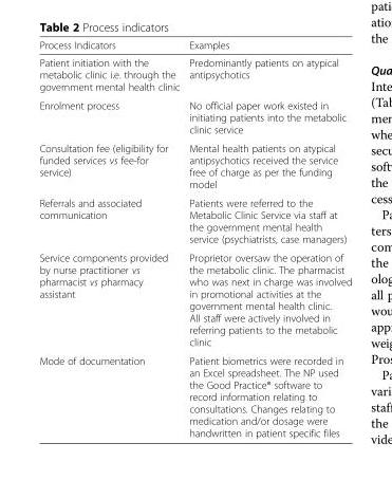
<table><thead><tr><td>Process Indicators</td><td>Examples</td></tr></thead><tbody><tr><td>Patient initiation with the metabolic clinic i.e. through the government mental health clinic</td><td>Predominantly patients on atypical antipsychotics</td></tr><tr><td>Enrolment process</td><td>No official paper work existed in initiating patients into the metabolic clinic service</td></tr><tr><td>Consultation fee (eligibility for funded services vs fee-for service)</td><td>Mental health patients on atypical antipsychotics received the service free of charge as per the funding model</td></tr><tr><td>Referrals and associated communication</td><td>Patients were referred to the Metabolic Clinic Service via staff at the government mental health service (psychiatrists, case managers)</td></tr><tr><td>Service components provided by nurse practitioner vs pharmacist vs pharmacy assistant</td><td>Proprietor oversaw the operation of the metabolic clinic. The pharmacist who was next in charge was involved in promotional activities at the government mental health clinic. All staff were actively involved in referring patients to the metabolic clinic</td></tr><tr><td>Mode of documentation</td><td>Patient biometrics were recorded in an Excel spreadsheet. The NP used the Good Practice® software to record information relating to consultations. Changes relating to medication and/or dosage were handwritten in patient specific files</td></tr></tbody></table>